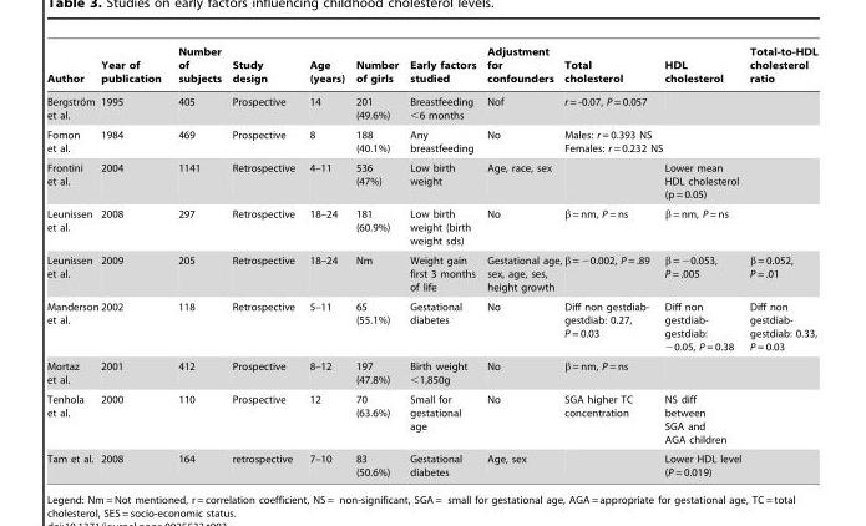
<table><thead><tr><td>Author</td><td>Year of publication</td><td>Number of subjects</td><td>Study design</td><td>Age (years)</td><td>Number of girls</td><td>Early factors studied</td><td>Adjustment for confounders</td><td>Total cholesterol</td><td>HDL cholesterol</td><td>Total-to-HDL cholesterol ratio</td></tr></thead><tbody><tr><td>Bergstro¨m et al.</td><td>1995</td><td>405</td><td>Prospective</td><td>14</td><td>201 (49.6%)</td><td>Breastfeeding &lt;6 months</td><td>Nof</td><td>r = -0.07, P = 0.057</td><td></td><td></td></tr><tr><td>Fomon et al.</td><td>1984</td><td>469</td><td>Prospective</td><td>8</td><td>188 (40.1%)</td><td>Any breastfeeding</td><td>No</td><td>Males: r = 0.393 NS Females: r = 0.232 NS</td><td></td><td></td></tr><tr><td>Frontini et al.</td><td>2004</td><td>1141</td><td>Retrospective</td><td>4–11</td><td>536 (47%)</td><td>Low birth weight</td><td>Age, race, sex</td><td></td><td>Lower mean HDL cholesterol (p = 0.05)</td><td></td></tr><tr><td>Leunissen et al.</td><td>2008</td><td>297</td><td>Retrospective</td><td>18–24</td><td>181 (60.9%)</td><td>Low birth weight (birth weight sds)</td><td>No</td><td>β = nm, P = ns</td><td>β = nm, P = ns</td><td></td></tr><tr><td>Leunissen et al.</td><td>2009</td><td>205</td><td>Retrospective</td><td>18–24</td><td>Nm</td><td>Weight gain first 3 months of life</td><td>Gestational age, sex, age, ses, height growth</td><td>β = −0.002, P = .89</td><td>β = −0.053, P = .005</td><td>β = 0.052, P = .01</td></tr><tr><td>Manderson et al.</td><td>2002</td><td>118</td><td>Retrospective</td><td>5–11</td><td>65 (55.1%)</td><td>Gestational diabetes</td><td>No</td><td>Diff non gestdiab- gestdiab: 0.27, P = 0.03</td><td>Diff non gestdiab- gestdiab: −0.05, P = 0.38</td><td>Diff non gestdiab- gestdiab: 0.33, P = 0.03</td></tr><tr><td>Mortaz et al.</td><td>2001</td><td>412</td><td>Prospective</td><td>8–12</td><td>197 (47.8%)</td><td>Birth weight &lt;1,850g</td><td>No</td><td>β = nm, P = ns</td><td></td><td></td></tr><tr><td>Tenhola et al.</td><td>2000</td><td>110</td><td>Prospective</td><td>12</td><td>70 (63.6%)</td><td>Small for gestational age</td><td>No</td><td>SGA higher TC concentration</td><td>NS diff between SGA and AGA children</td><td></td></tr><tr><td>Tam et al.</td><td>2008</td><td>164</td><td>retrospective</td><td>7–10</td><td>83 (50.6%)</td><td>Gestational diabetes</td><td>Age, sex</td><td></td><td>Lower HDL level (P = 0.019)</td><td></td></tr></tbody></table>